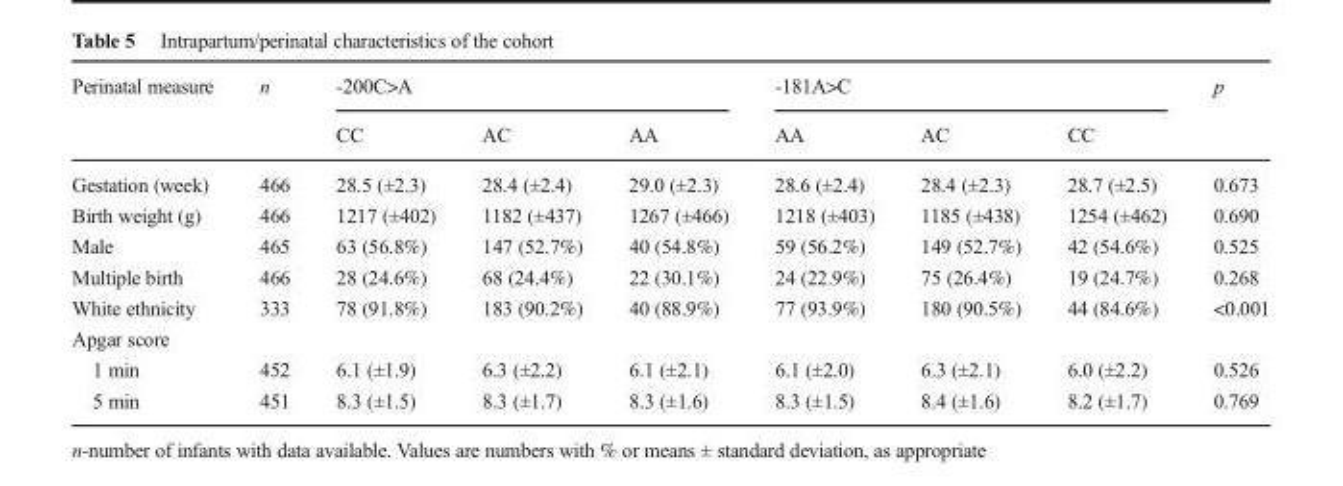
<table><thead><tr><td rowspan="2">Perinatal measure</td><td rowspan="2">n</td><td colspan="3">-200C&gt;A</td><td colspan="3">-181A&gt;C</td><td rowspan="2">p</td></tr><tr><td>CC</td><td>AC</td><td>AA</td><td>AA</td><td>AC</td><td>CC</td></tr></thead><tbody><tr><td>Gestation (week)</td><td>466</td><td>28.5 (±2.3)</td><td>28.4 (±2.4)</td><td>29.0 (±2.3)</td><td>28.6 (±2.4)</td><td>28.4 (±2.3)</td><td>28.7 (±2.5)</td><td>0.673</td></tr><tr><td>Birth weight (g)</td><td>466</td><td>1217 (±402)</td><td>1182 (±437)</td><td>1267 (±466)</td><td>1218 (±403)</td><td>1185 (±438)</td><td>1254 (±462)</td><td>0.690</td></tr><tr><td>Male</td><td>465</td><td>63 (56.8%)</td><td>147 (52.7%)</td><td>40 (54.8%)</td><td>59 (56.2%)</td><td>149 (52.7%)</td><td>42 (54.6%)</td><td>0.525</td></tr><tr><td>Multiple birth</td><td>466</td><td>28 (24.6%)</td><td>68 (24.4%)</td><td>22 (30.1%)</td><td>24 (22.9%)</td><td>75 (26.4%)</td><td>19 (24.7%)</td><td>0.268</td></tr><tr><td>White ethnicity</td><td>333</td><td>78 (91.8%)</td><td>183 (90.2%)</td><td>40 (88.9%)</td><td>77 (93.9%)</td><td>180 (90.5%)</td><td>44 (84.6%)</td><td>&lt;0.001</td></tr><tr><td colspan="9">Apgar score</td></tr><tr><td>1 min</td><td>452</td><td>6.1 (±1.9)</td><td>6.3 (±2.2)</td><td>6.1 (±2.1)</td><td>6.1 (±2.0)</td><td>6.3 (±2.1)</td><td>6.0 (±2.2)</td><td>0.526</td></tr><tr><td>5 min</td><td>451</td><td>8.3 (±1.5)</td><td>8.3 (±1.7)</td><td>8.3 (±1.6)</td><td>8.3 (±1.5)</td><td>8.4 (±1.6)</td><td>8.2 (±1.7)</td><td>0.769</td></tr></tbody></table>